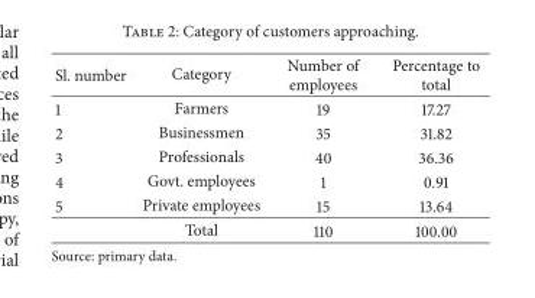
<table><thead><tr><td>Sl. number</td><td>Category</td><td>Number of employees</td><td>Percentage to total</td></tr></thead><tbody><tr><td>1</td><td>Farmers</td><td>19</td><td>17.27</td></tr><tr><td>2</td><td>Businessmen</td><td>35</td><td>31.82</td></tr><tr><td>3</td><td>Professionals</td><td>40</td><td>36.36</td></tr><tr><td>4</td><td>Govt. employees</td><td>1</td><td>0.91</td></tr><tr><td rowspan="2">5</td><td>Private employees</td><td>15</td><td>13.64</td></tr><tr><td>Total</td><td>110</td><td>100.00</td></tr></tbody></table>